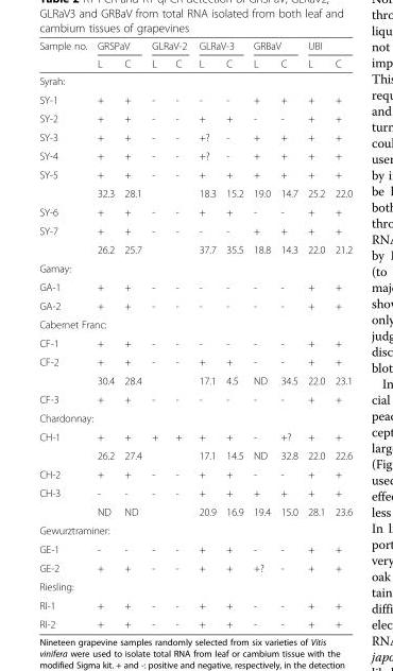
<table><thead><tr><td rowspan="2">Sample no.</td><td colspan="2">GRSPaV</td><td colspan="2">GLRaV-2</td><td colspan="2">GLRaV-3</td><td colspan="2">GRBaV</td><td colspan="2">UBI</td></tr><tr><td>L</td><td>C</td><td>L</td><td>C</td><td>L</td><td>C</td><td>L</td><td>C</td><td>L</td><td>C</td></tr></thead><tbody><tr><td colspan="11">Syrah:</td></tr><tr><td>SY-1</td><td>+</td><td>+</td><td>-</td><td>-</td><td>-</td><td>-</td><td>+</td><td>+</td><td>+</td><td>+</td></tr><tr><td>SY-2</td><td>+</td><td>+</td><td>-</td><td>-</td><td>+</td><td>+</td><td>-</td><td>-</td><td>+</td><td>+</td></tr><tr><td>SY-3</td><td>+</td><td>+</td><td>-</td><td>-</td><td>+?</td><td>-</td><td>+</td><td>+</td><td>+</td><td>+</td></tr><tr><td>SY-4</td><td>+</td><td>+</td><td>-</td><td>-</td><td>+?</td><td>-</td><td>+</td><td>+</td><td>+</td><td>+</td></tr><tr><td rowspan="2">SY-5</td><td>+</td><td>+</td><td>-</td><td>-</td><td>+</td><td>+</td><td>+</td><td>+</td><td>+</td><td>+</td></tr><tr><td>32.3</td><td>28.1</td><td></td><td></td><td>18.3</td><td>15.2</td><td>19.0</td><td>14.7</td><td>25.2</td><td>22.0</td></tr><tr><td>SY-6</td><td>+</td><td>+</td><td>-</td><td>-</td><td>+</td><td>+</td><td>-</td><td>-</td><td>+</td><td>+</td></tr><tr><td rowspan="2">SY-7</td><td>+</td><td>+</td><td>-</td><td>-</td><td>-</td><td>-</td><td>+</td><td>+</td><td>+</td><td>+</td></tr><tr><td>26.2</td><td>25.7</td><td></td><td></td><td>37.7</td><td>35.5</td><td>18.8</td><td>14.3</td><td>22.0</td><td>21.2</td></tr><tr><td colspan="11">Gamay:</td></tr><tr><td>GA-1</td><td>+</td><td>+</td><td>-</td><td>-</td><td>-</td><td>-</td><td>-</td><td>-</td><td>+</td><td>+</td></tr><tr><td>GA-2</td><td>+</td><td>+</td><td>-</td><td>-</td><td>-</td><td>-</td><td>-</td><td>-</td><td>+</td><td>+</td></tr><tr><td colspan="11">Cabernet Franc:</td></tr><tr><td>CF-1</td><td>+</td><td>+</td><td>-</td><td>-</td><td>-</td><td>-</td><td>-</td><td>-</td><td>+</td><td>+</td></tr><tr><td rowspan="2">CF-2</td><td>+</td><td>+</td><td>-</td><td>-</td><td>+</td><td>+</td><td>-</td><td>-</td><td>+</td><td>+</td></tr><tr><td>30.4</td><td>28.4</td><td></td><td></td><td>17.1</td><td>4.5</td><td>ND</td><td>34.5</td><td>22.0</td><td>23.1</td></tr><tr><td>CF-3</td><td>+</td><td>+</td><td>-</td><td>-</td><td>-</td><td>-</td><td>-</td><td>-</td><td>+</td><td>+</td></tr><tr><td colspan="11">Chardonnay:</td></tr><tr><td rowspan="2">CH-1</td><td>+</td><td>+</td><td>+</td><td>+</td><td>+</td><td>+</td><td>-</td><td>+?</td><td>+</td><td>+</td></tr><tr><td>26.2</td><td>27.4</td><td></td><td></td><td>17.1</td><td>14.5</td><td>ND</td><td>32.8</td><td>22.0</td><td>22.6</td></tr><tr><td>CH-2</td><td>+</td><td>+</td><td>-</td><td>-</td><td>+</td><td>+</td><td>-</td><td>-</td><td>+</td><td>+</td></tr><tr><td rowspan="2">CH-3</td><td>-</td><td>-</td><td>-</td><td>-</td><td>+</td><td>+</td><td>+</td><td>+</td><td>+</td><td>+</td></tr><tr><td>ND</td><td>ND</td><td></td><td></td><td>20.9</td><td>16.9</td><td>19.4</td><td>15.0</td><td>28.1</td><td>23.6</td></tr><tr><td colspan="11">Gewurztraminer:</td></tr><tr><td>GE-1</td><td>-</td><td>-</td><td>-</td><td>-</td><td>+</td><td>+</td><td>-</td><td>-</td><td>+</td><td>+</td></tr><tr><td>GE-2</td><td>+</td><td>+</td><td>-</td><td>-</td><td>+</td><td>+</td><td>+?</td><td>-</td><td>+</td><td>+</td></tr><tr><td colspan="11">Riesling:</td></tr><tr><td>RI-1</td><td>+</td><td>+</td><td>-</td><td>-</td><td>+</td><td>+</td><td>-</td><td>-</td><td>+</td><td>+</td></tr><tr><td>RI-2</td><td>+</td><td>+</td><td>-</td><td>-</td><td>+</td><td>+</td><td>-</td><td>-</td><td>+</td><td>+</td></tr></tbody></table>